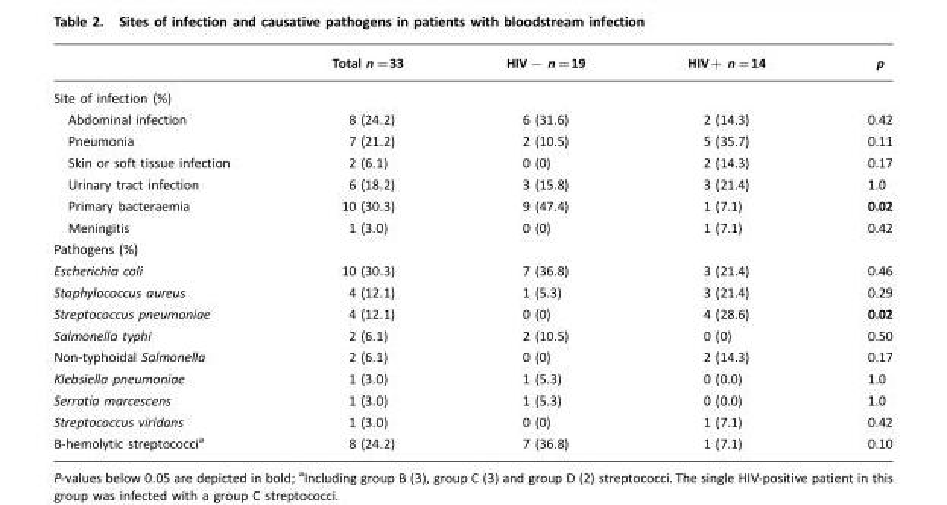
<table><thead><tr><td></td><td>Total n=33</td><td>HIV− n=19</td><td>HIV+ n=14</td><td>p</td></tr></thead><tbody><tr><td colspan="5">Site of infection (%)</td></tr><tr><td>Abdominal infection</td><td>8 (24.2)</td><td>6 (31.6)</td><td>2 (14.3)</td><td>0.42</td></tr><tr><td>Pneumonia</td><td>7 (21.2)</td><td>2 (10.5)</td><td>5 (35.7)</td><td>0.11</td></tr><tr><td>Skin or soft tissue infection</td><td>2 (6.1)</td><td>0 (0)</td><td>2 (14.3)</td><td>0.17</td></tr><tr><td>Urinary tract infection</td><td>6 (18.2)</td><td>3 (15.8)</td><td>3 (21.4)</td><td>1.0</td></tr><tr><td>Primary bacteraemia</td><td>10 (30.3)</td><td>9 (47.4)</td><td>1 (7.1)</td><td>0.02</td></tr><tr><td>Meningitis</td><td>1 (3.0)</td><td>0 (0)</td><td>1 (7.1)</td><td>0.42</td></tr><tr><td colspan="5">Pathogens (%)</td></tr><tr><td>Escherichia coli</td><td>10 (30.3)</td><td>7 (36.8)</td><td>3 (21.4)</td><td>0.46</td></tr><tr><td>Staphylococcus aureus</td><td>4 (12.1)</td><td>1 (5.3)</td><td>3 (21.4)</td><td>0.29</td></tr><tr><td>Streptococcus pneumoniae</td><td>4 (12.1)</td><td>0 (0)</td><td>4 (28.6)</td><td>0.02</td></tr><tr><td>Salmonella typhi</td><td>2 (6.1)</td><td>2 (10.5)</td><td>0 (0)</td><td>0.50</td></tr><tr><td>Non-typhoidal Salmonella</td><td>2 (6.1)</td><td>0 (0)</td><td>2 (14.3)</td><td>0.17</td></tr><tr><td>Klebsiella pneumoniae</td><td>1 (3.0)</td><td>1 (5.3)</td><td>0 (0.0)</td><td>1.0</td></tr><tr><td>Serratia marcescens</td><td>1 (3.0)</td><td>1 (5.3)</td><td>0 (0.0)</td><td>1.0</td></tr><tr><td>Streptococcus viridans</td><td>1 (3.0)</td><td>0 (0)</td><td>1 (7.1)</td><td>0.42</td></tr><tr><td>B-hemolytic streptococci<sup>a</sup></td><td>8 (24.2)</td><td>7 (36.8)</td><td>1 (7.1)</td><td>0.10</td></tr></tbody></table>